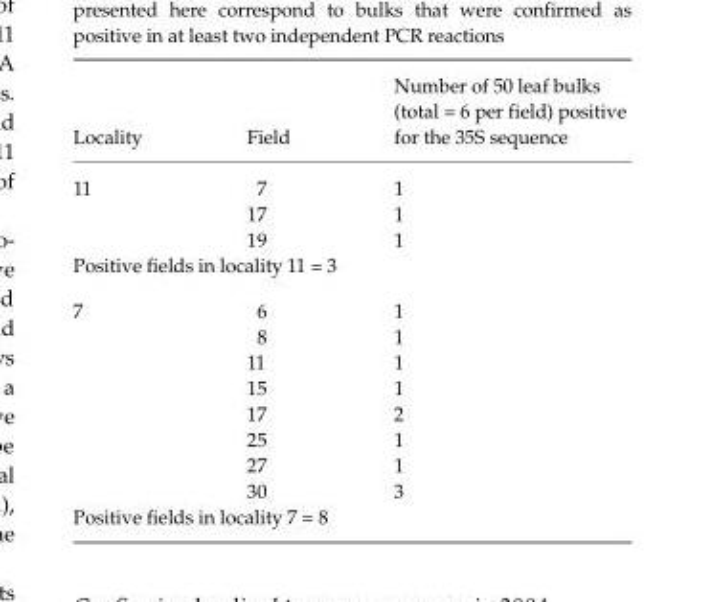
<table><thead><tr><td>Locality</td><td>Field</td><td>Number of 50 leaf bulks (total = 6 per field) positive for the 35S sequence</td></tr></thead><tbody><tr><td rowspan="3">11</td><td>7</td><td>1</td></tr><tr><td>17</td><td>1</td></tr><tr><td>19</td><td>1</td></tr><tr><td colspan="3">Positive fields in locality 11 = 3</td></tr><tr><td rowspan="8">7</td><td>6</td><td>1</td></tr><tr><td>8</td><td>1</td></tr><tr><td>11</td><td>1</td></tr><tr><td>15</td><td>1</td></tr><tr><td>17</td><td>2</td></tr><tr><td>25</td><td>1</td></tr><tr><td>27</td><td>1</td></tr><tr><td>30</td><td>3</td></tr><tr><td colspan="3">Positive fields in locality 7 = 8</td></tr></tbody></table>